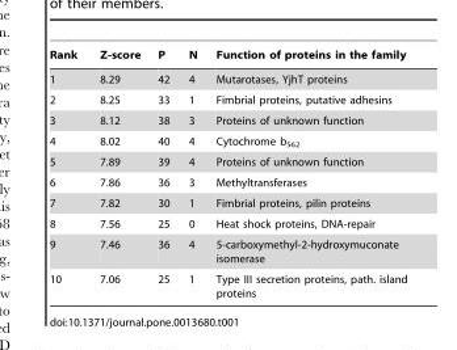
<table><thead><tr><td>Rank</td><td>Z-score</td><td>P</td><td>N</td><td>Function of proteins in the family</td></tr></thead><tbody><tr><td>1</td><td>8.29</td><td>42</td><td>4</td><td>Mutarotases, YjhT proteins</td></tr><tr><td>2</td><td>8.25</td><td>33</td><td>1</td><td>Fimbrial proteins, putative adhesins</td></tr><tr><td>3</td><td>8.12</td><td>38</td><td>3</td><td>Proteins of unknown function</td></tr><tr><td>4</td><td>8.02</td><td>40</td><td>4</td><td>Cytochrome b<sub>562</sub></td></tr><tr><td>5</td><td>7.89</td><td>39</td><td>4</td><td>Proteins of unknown function</td></tr><tr><td>6</td><td>7.86</td><td>36</td><td>3</td><td>Methyltransferases</td></tr><tr><td>7</td><td>7.82</td><td>30</td><td>1</td><td>Fimbrial proteins, pilin proteins</td></tr><tr><td>8</td><td>7.56</td><td>25</td><td>0</td><td>Heat shock proteins, DNA-repair</td></tr><tr><td>9</td><td>7.46</td><td>36</td><td>4</td><td>5-carboxymethyl-2-hydroxymuconate isomerase</td></tr><tr><td>10</td><td>7.06</td><td>25</td><td>1</td><td>Type III secretion proteins, path. island proteins</td></tr></tbody></table>